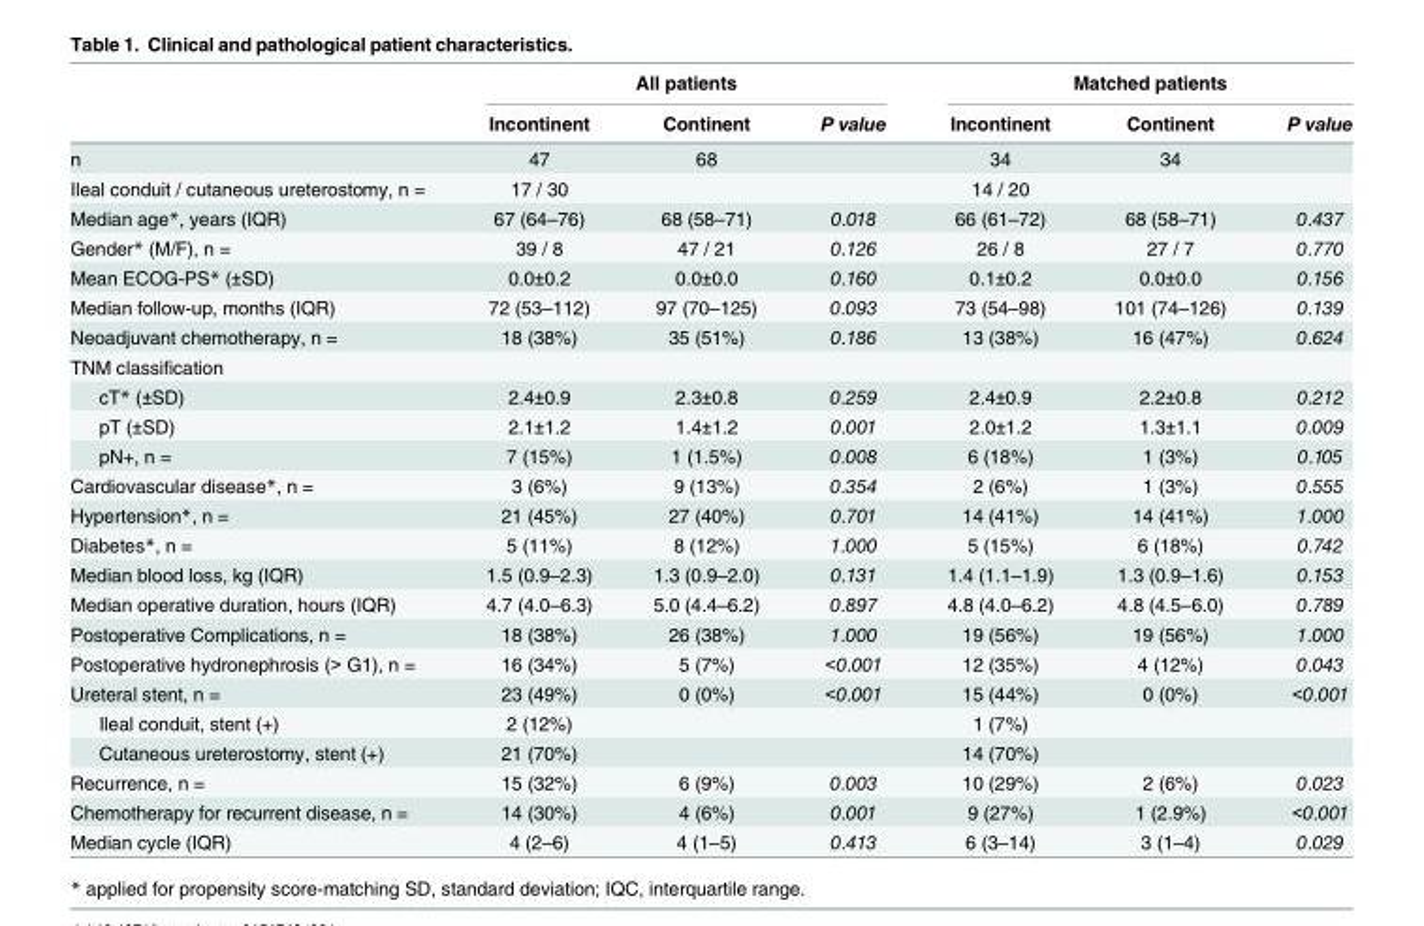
<table><thead><tr><td rowspan="2"></td><td colspan="3">All patients</td><td colspan="3">Matched patients</td></tr><tr><td>Incontinent</td><td>Continent</td><td>P value</td><td>Incontinent</td><td>Continent</td><td>P value</td></tr></thead><tbody><tr><td>n</td><td>47</td><td>68</td><td></td><td>34</td><td>34</td><td></td></tr><tr><td>Ileal conduit / cutaneous ureterostomy, n =</td><td>17 / 30</td><td></td><td></td><td>14 / 20</td><td></td><td></td></tr><tr><td>Median age*, years (IQR)</td><td>67 (64–76)</td><td>68 (58–71)</td><td>0.018</td><td>66 (61–72)</td><td>68 (58–71)</td><td>0.437</td></tr><tr><td>Gender* (M/F), n =</td><td>39 / 8</td><td>47 / 21</td><td>0.126</td><td>26 / 8</td><td>27 / 7</td><td>0.770</td></tr><tr><td>Mean ECOG-PS* (±SD)</td><td>0.0±0.2</td><td>0.0±0.0</td><td>0.160</td><td>0.1±0.2</td><td>0.0±0.0</td><td>0.156</td></tr><tr><td>Median follow-up, months (IQR)</td><td>72 (53–112)</td><td>97 (70–125)</td><td>0.093</td><td>73 (54–98)</td><td>101 (74–126)</td><td>0.139</td></tr><tr><td>Neoadjuvant chemotherapy, n =</td><td>18 (38%)</td><td>35 (51%)</td><td>0.186</td><td>13 (38%)</td><td>16 (47%)</td><td>0.624</td></tr><tr><td colspan="7">TNM classification</td></tr><tr><td>cT* (±SD)</td><td>2.4±0.9</td><td>2.3±0.8</td><td>0.259</td><td>2.4±0.9</td><td>2.2±0.8</td><td>0.212</td></tr><tr><td>pT (±SD)</td><td>2.1±1.2</td><td>1.4±1.2</td><td>0.001</td><td>2.0±1.2</td><td>1.3±1.1</td><td>0.009</td></tr><tr><td>pN+, n =</td><td>7 (15%)</td><td>1 (1.5%)</td><td>0.008</td><td>6 (18%)</td><td>1 (3%)</td><td>0.105</td></tr><tr><td>Cardiovascular disease*, n =</td><td>3 (6%)</td><td>9 (13%)</td><td>0.354</td><td>2 (6%)</td><td>1 (3%)</td><td>0.555</td></tr><tr><td>Hypertension*, n =</td><td>21 (45%)</td><td>27 (40%)</td><td>0.701</td><td>14 (41%)</td><td>14 (41%)</td><td>1.000</td></tr><tr><td>Diabetes*, n =</td><td>5 (11%)</td><td>8 (12%)</td><td>1.000</td><td>5 (15%)</td><td>6 (18%)</td><td>0.742</td></tr><tr><td>Median blood loss, kg (IQR)</td><td>1.5 (0.9–2.3)</td><td>1.3 (0.9–2.0)</td><td>0.131</td><td>1.4 (1.1–1.9)</td><td>1.3 (0.9–1.6)</td><td>0.153</td></tr><tr><td>Median operative duration, hours (IQR)</td><td>4.7 (4.0–6.3)</td><td>5.0 (4.4–6.2)</td><td>0.897</td><td>4.8 (4.0–6.2)</td><td>4.8 (4.5–6.0)</td><td>0.789</td></tr><tr><td>Postoperative Complications, n =</td><td>18 (38%)</td><td>26 (38%)</td><td>1.000</td><td>19 (56%)</td><td>19 (56%)</td><td>1.000</td></tr><tr><td>Postoperative hydronephrosis (&gt; G1), n =</td><td>16 (34%)</td><td>5 (7%)</td><td>&lt;0.001</td><td>12 (35%)</td><td>4 (12%)</td><td>0.043</td></tr><tr><td>Ureteral stent, n =</td><td>23 (49%)</td><td>0 (0%)</td><td>&lt;0.001</td><td>15 (44%)</td><td>0 (0%)</td><td>&lt;0.001</td></tr><tr><td>Ileal conduit, stent (+)</td><td>2 (12%)</td><td></td><td></td><td>1 (7%)</td><td></td><td></td></tr><tr><td>Cutaneous ureterostomy, stent (+)</td><td>21 (70%)</td><td></td><td></td><td>14 (70%)</td><td></td><td></td></tr><tr><td>Recurrence, n =</td><td>15 (32%)</td><td>6 (9%)</td><td>0.003</td><td>10 (29%)</td><td>2 (6%)</td><td>0.023</td></tr><tr><td>Chemotherapy for recurrent disease, n =</td><td>14 (30%)</td><td>4 (6%)</td><td>0.001</td><td>9 (27%)</td><td>1 (2.9%)</td><td>&lt;0.001</td></tr><tr><td>Median cycle (IQR)</td><td>4 (2–6)</td><td>4 (1–5)</td><td>0.413</td><td>6 (3–14)</td><td>3 (1–4)</td><td>0.029</td></tr></tbody></table>